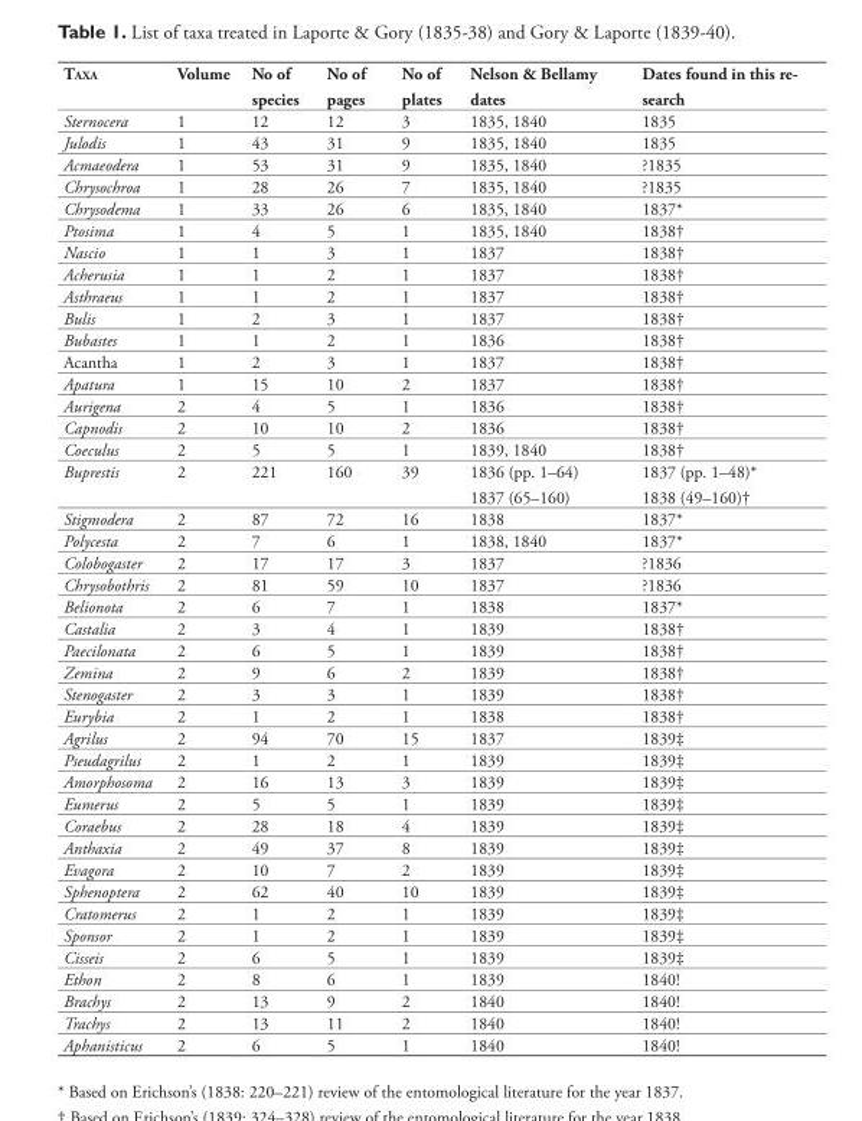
<table><thead><tr><td>tAxA</td><td>Volume</td><td>No of species</td><td>No of pages</td><td>No of plates</td><td>Nelson &amp; Bellamy dates</td><td>Dates found in this re- search</td></tr></thead><tbody><tr><td>Sternocera</td><td>1</td><td>12</td><td>12</td><td>3</td><td>1835, 1840</td><td>1835</td></tr><tr><td>Julodis</td><td>1</td><td>43</td><td>31</td><td>9</td><td>1835, 1840</td><td>1835</td></tr><tr><td>Acmaeodera</td><td>1</td><td>53</td><td>31</td><td>9</td><td>1835, 1840</td><td>?1835</td></tr><tr><td>Chrysochroa</td><td>1</td><td>28</td><td>26</td><td>7</td><td>1835, 1840</td><td>?1835</td></tr><tr><td>Chrysodema</td><td>1</td><td>33</td><td>26</td><td>6</td><td>1835, 1840</td><td>1837*</td></tr><tr><td>Ptosima</td><td>1</td><td>4</td><td>5</td><td>1</td><td>1835, 1840</td><td>1838†</td></tr><tr><td>Nascio</td><td>1</td><td>1</td><td>3</td><td>1</td><td>1837</td><td>1838†</td></tr><tr><td>Acherusia</td><td>1</td><td>1</td><td>2</td><td>1</td><td>1837</td><td>1838†</td></tr><tr><td>Asthraeus</td><td>1</td><td>1</td><td>2</td><td>1</td><td>1837</td><td>1838†</td></tr><tr><td>Bulis</td><td>1</td><td>2</td><td>3</td><td>1</td><td>1837</td><td>1838†</td></tr><tr><td>Bubastes</td><td>1</td><td>1</td><td>2</td><td>1</td><td>1836</td><td>1838†</td></tr><tr><td>Acantha</td><td>1</td><td>2</td><td>3</td><td>1</td><td>1837</td><td>1838†</td></tr><tr><td>Apatura</td><td>1</td><td>15</td><td>10</td><td>2</td><td>1837</td><td>1838†</td></tr><tr><td>Aurigena</td><td>2</td><td>4</td><td>5</td><td>1</td><td>1836</td><td>1838†</td></tr><tr><td>Capnodis</td><td>2</td><td>10</td><td>10</td><td>2</td><td>1836</td><td>1838†</td></tr><tr><td>Coeculus</td><td>2</td><td>5</td><td>5</td><td>1</td><td>1839, 1840</td><td>1838†</td></tr><tr><td>Buprestis</td><td>2</td><td>221</td><td>160</td><td>39</td><td>1836 (pp. 1–64) 1837 (65–160)</td><td>1837 (pp. 1–48)* 1838 (49–160)†</td></tr><tr><td>Stigmodera</td><td>2</td><td>87</td><td>72</td><td>16</td><td>1838</td><td>1837*</td></tr><tr><td>Polycesta</td><td>2</td><td>7</td><td>6</td><td>1</td><td>1838, 1840</td><td>1837*</td></tr><tr><td>Colobogaster</td><td>2</td><td>17</td><td>17</td><td>3</td><td>1837</td><td>?1836</td></tr><tr><td>Chrysobothris</td><td>2</td><td>81</td><td>59</td><td>10</td><td>1837</td><td>?1836</td></tr><tr><td>Belionota</td><td>2</td><td>6</td><td>7</td><td>1</td><td>1838</td><td>1837*</td></tr><tr><td>Castalia</td><td>2</td><td>3</td><td>4</td><td>1</td><td>1839</td><td>1838†</td></tr><tr><td>Paecilonata</td><td>2</td><td>6</td><td>5</td><td>1</td><td>1839</td><td>1838†</td></tr><tr><td>Zemina</td><td>2</td><td>9</td><td>6</td><td>2</td><td>1839</td><td>1838†</td></tr><tr><td>Stenogaster</td><td>2</td><td>3</td><td>3</td><td>1</td><td>1839</td><td>1838†</td></tr><tr><td>Eurybia</td><td>2</td><td>1</td><td>2</td><td>1</td><td>1838</td><td>1838†</td></tr><tr><td>Agrilus</td><td>2</td><td>94</td><td>70</td><td>15</td><td>1837</td><td>1839‡</td></tr><tr><td>Pseudagrilus</td><td>2</td><td>1</td><td>2</td><td>1</td><td>1839</td><td>1839‡</td></tr><tr><td>Amorphosoma</td><td>2</td><td>16</td><td>13</td><td>3</td><td>1839</td><td>1839‡</td></tr><tr><td>Eumerus</td><td>2</td><td>5</td><td>5</td><td>1</td><td>1839</td><td>1839‡</td></tr><tr><td>Coraebus</td><td>2</td><td>28</td><td>18</td><td>4</td><td>1839</td><td>1839‡</td></tr><tr><td>Anthaxia</td><td>2</td><td>49</td><td>37</td><td>8</td><td>1839</td><td>1839‡</td></tr><tr><td>Evagora</td><td>2</td><td>10</td><td>7</td><td>2</td><td>1839</td><td>1839‡</td></tr><tr><td>Sphenoptera</td><td>2</td><td>62</td><td>40</td><td>10</td><td>1839</td><td>1839‡</td></tr><tr><td>Cratomerus</td><td>2</td><td>1</td><td>2</td><td>1</td><td>1839</td><td>1839‡</td></tr><tr><td>Sponsor</td><td>2</td><td>1</td><td>2</td><td>1</td><td>1839</td><td>1839‡</td></tr><tr><td>Cisseis</td><td>2</td><td>6</td><td>5</td><td>1</td><td>1839</td><td>1839‡</td></tr><tr><td>Ethon</td><td>2</td><td>8</td><td>6</td><td>1</td><td>1839</td><td>1840!</td></tr><tr><td>Brachys</td><td>2</td><td>13</td><td>9</td><td>2</td><td>1840</td><td>1840!</td></tr><tr><td>Trachys</td><td>2</td><td>13</td><td>11</td><td>2</td><td>1840</td><td>1840!</td></tr><tr><td>Aphanisticus</td><td>2</td><td>6</td><td>5</td><td>1</td><td>1840</td><td>1840!</td></tr></tbody></table>